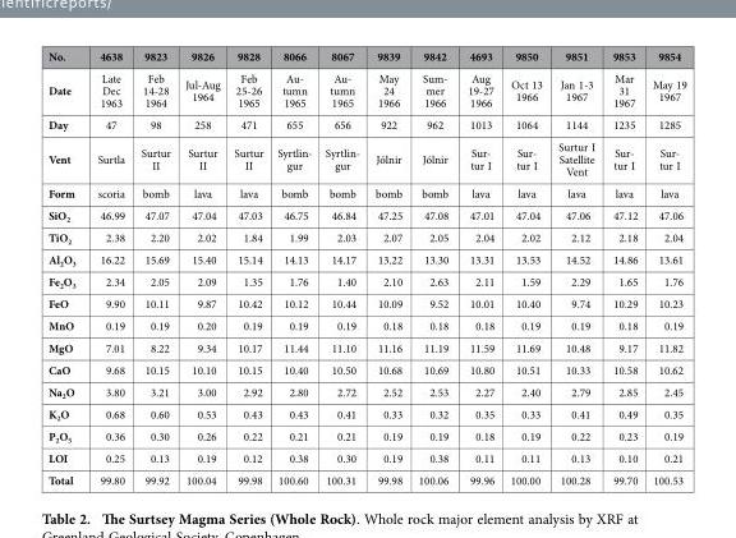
<table><thead><tr><td>No.</td><td>4638</td><td>9823</td><td>9826</td><td>9828</td><td>8066</td><td>8067</td><td>9839</td><td>9842</td><td>4693</td><td>9850</td><td>9851</td><td>9853</td><td>9854</td></tr></thead><tbody><tr><td>Date</td><td>Late Dec 1963</td><td>Feb 14-28 1964</td><td>Jul-Aug 1964</td><td>Feb 25-26 1965</td><td>Au- tumn 1965</td><td>Au- tumn 1965</td><td>May 24 1966</td><td>Sum- mer 1966</td><td>Aug 19-27 1966</td><td>Oct 13 1966</td><td>Jan 1-3 1967</td><td>Mar 31 1967</td><td>May 19 1967</td></tr><tr><td>Day</td><td>47</td><td>98</td><td>258</td><td>471</td><td>655</td><td>656</td><td>922</td><td>962</td><td>1013</td><td>1064</td><td>1144</td><td>1235</td><td>1285</td></tr><tr><td>Vent</td><td>Surtla</td><td>Surtur II</td><td>Surtur II</td><td>Surtur II</td><td>Syrtlin- gur</td><td>Syrtlin- gur</td><td>Jólnir</td><td>Jólnir</td><td>Sur- tur I</td><td>Sur- tur I</td><td>Surtur I Satellite Vent</td><td>Sur- tur I</td><td>Sur- tur I</td></tr><tr><td>Form</td><td>scoria</td><td>bomb</td><td>lava</td><td>lava</td><td>bomb</td><td>bomb</td><td>bomb</td><td>bomb</td><td>lava</td><td>lava</td><td>lava</td><td>lava</td><td>lava</td></tr><tr><td>SiO<sub>2</sub></td><td>46.99</td><td>47.07</td><td>47.04</td><td>47.03</td><td>46.75</td><td>46.84</td><td>47.25</td><td>47.08</td><td>47.01</td><td>47.04</td><td>47.06</td><td>47.12</td><td>47.06</td></tr><tr><td>TiO<sub>2</sub></td><td>2.38</td><td>2.20</td><td>2.02</td><td>1.84</td><td>1.99</td><td>2.03</td><td>2.07</td><td>2.05</td><td>2.04</td><td>2.02</td><td>2.12</td><td>2.18</td><td>2.04</td></tr><tr><td>Al<sub>2</sub>O<sub>3</sub></td><td>16.22</td><td>15.69</td><td>15.40</td><td>15.14</td><td>14.13</td><td>14.17</td><td>13.22</td><td>13.30</td><td>13.31</td><td>13.53</td><td>14.52</td><td>14.86</td><td>13.61</td></tr><tr><td>Fe<sub>2</sub>O<sub>3</sub></td><td>2.34</td><td>2.05</td><td>2.09</td><td>1.35</td><td>1.76</td><td>1.40</td><td>2.10</td><td>2.63</td><td>2.11</td><td>1.59</td><td>2.29</td><td>1.65</td><td>1.76</td></tr><tr><td>FeO</td><td>9.90</td><td>10.11</td><td>9.87</td><td>10.42</td><td>10.12</td><td>10.44</td><td>10.09</td><td>9.52</td><td>10.01</td><td>10.40</td><td>9.74</td><td>10.29</td><td>10.23</td></tr><tr><td>MnO</td><td>0.19</td><td>0.19</td><td>0.20</td><td>0.19</td><td>0.19</td><td>0.19</td><td>0.18</td><td>0.18</td><td>0.18</td><td>0.19</td><td>0.19</td><td>0.18</td><td>0.19</td></tr><tr><td>MgO</td><td>7.01</td><td>8.22</td><td>9.34</td><td>10.17</td><td>11.44</td><td>11.10</td><td>11.16</td><td>11.19</td><td>11.59</td><td>11.69</td><td>10.48</td><td>9.17</td><td>11.82</td></tr><tr><td>CaO</td><td>9.68</td><td>10.15</td><td>10.10</td><td>10.15</td><td>10.40</td><td>10.50</td><td>10.68</td><td>10.69</td><td>10.80</td><td>10.51</td><td>10.33</td><td>10.58</td><td>10.62</td></tr><tr><td>Na<sub>2</sub>O</td><td>3.80</td><td>3.21</td><td>3.00</td><td>2.92</td><td>2.80</td><td>2.72</td><td>2.52</td><td>2.53</td><td>2.27</td><td>2.40</td><td>2.79</td><td>2.85</td><td>2.45</td></tr><tr><td>K<sub>2</sub>O</td><td>0.68</td><td>0.60</td><td>0.53</td><td>0.43</td><td>0.43</td><td>0.41</td><td>0.33</td><td>0.32</td><td>0.35</td><td>0.33</td><td>0.41</td><td>0.49</td><td>0.35</td></tr><tr><td>P<sub>2</sub>O<sub>5</sub></td><td>0.36</td><td>0.30</td><td>0.26</td><td>0.22</td><td>0.21</td><td>0.21</td><td>0.19</td><td>0.19</td><td>0.18</td><td>0.19</td><td>0.22</td><td>0.23</td><td>0.19</td></tr><tr><td>LOI</td><td>0.25</td><td>0.13</td><td>0.19</td><td>0.12</td><td>0.38</td><td>0.30</td><td>0.19</td><td>0.38</td><td>0.11</td><td>0.11</td><td>0.13</td><td>0.10</td><td>0.21</td></tr><tr><td>Total</td><td>99.80</td><td>99.92</td><td>100.04</td><td>99.98</td><td>100.60</td><td>100.31</td><td>99.98</td><td>100.06</td><td>99.96</td><td>100.00</td><td>100.28</td><td>99.70</td><td>100.53</td></tr></tbody></table>